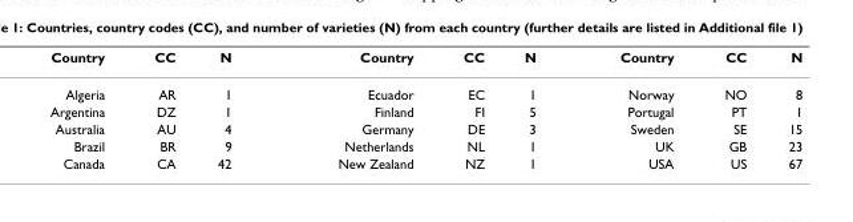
<table><thead><tr><td>Country</td><td>CC</td><td>N</td><td>Country</td><td>CC</td><td>N</td><td>Country</td><td>CC</td><td>N</td></tr></thead><tbody><tr><td>Algeria</td><td>AR</td><td>1</td><td>Ecuador</td><td>EC</td><td>1</td><td>Norway</td><td>NO</td><td>8</td></tr><tr><td>Argentina</td><td>DZ</td><td>1</td><td>Finland</td><td>FI</td><td>5</td><td>Portugal</td><td>PT</td><td>1</td></tr><tr><td>Australia</td><td>AU</td><td>4</td><td>Germany</td><td>DE</td><td>3</td><td>Sweden</td><td>SE</td><td>15</td></tr><tr><td>Brazil</td><td>BR</td><td>9</td><td>Netherlands</td><td>NL</td><td>1</td><td>UK</td><td>GB</td><td>23</td></tr><tr><td>Canada</td><td>CA</td><td>42</td><td>New Zealand</td><td>NZ</td><td>1</td><td>USA</td><td>US</td><td>67</td></tr></tbody></table>